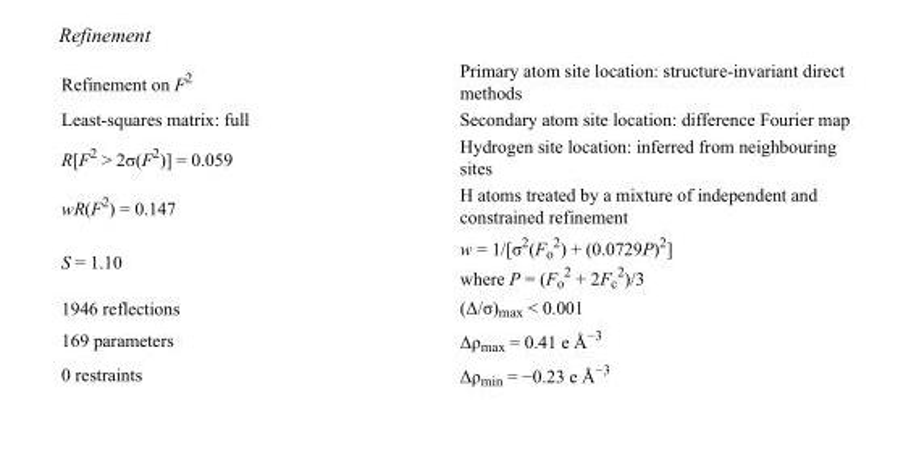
<table><tbody><tr><td>Refinement on F<sup>2</sup></td><td>Primary atom site location: structure-invariant direct methods</td></tr><tr><td>Least-squares matrix: full</td><td>Secondary atom site location: difference Fourier map</td></tr><tr><td>R[F<sup>2</sup> &gt; 2σ(F<sup>2</sup>)] = 0.059</td><td>Hydrogen site location: inferred from neighbouring sites</td></tr><tr><td>wR(F<sup>2</sup>) = 0.147</td><td>H atoms treated by a mixture of independent and constrained refinement</td></tr><tr><td>S = 1.10</td><td>w = 1/[σ<sup>2</sup>(F<sub>o</sub> <sup>2</sup>) + (0.0729P)<sup>2</sup>] where P = (F<sub>o</sub> <sup>2</sup> + 2F<sub>c</sub> <sup>2</sup>)/3</td></tr><tr><td>1946 reflections</td><td>(Δ/σ)<sub>max</sub> &lt; 0.001</td></tr><tr><td>169 parameters</td><td>Δρ<sub>max</sub> = 0.41 e Å<sup>−3</sup></td></tr><tr><td>0 restraints</td><td>Δρ<sub>min</sub> = −0.23 e Å<sup>−3</sup></td></tr></tbody></table>